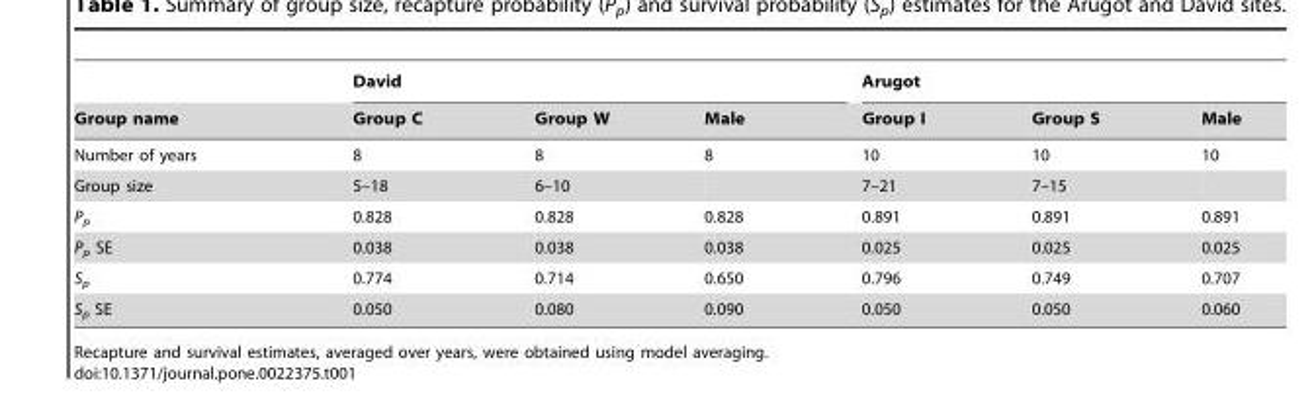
<table><thead><tr><td rowspan="2">Group name</td><td colspan="3">David</td><td colspan="3">Arugot</td></tr><tr><td>Group C</td><td>Group W</td><td>Male</td><td>Group I</td><td>Group S</td><td>Male</td></tr></thead><tbody><tr><td>Number of years</td><td>8</td><td>8</td><td>8</td><td>10</td><td>10</td><td>10</td></tr><tr><td>Group size</td><td>5–18</td><td>6–10</td><td></td><td>7–21</td><td>7–15</td><td></td></tr><tr><td>P<sub>p</sub></td><td>0.828</td><td>0.828</td><td>0.828</td><td>0.891</td><td>0.891</td><td>0.891</td></tr><tr><td>P<sub>p</sub> SE</td><td>0.038</td><td>0.038</td><td>0.038</td><td>0.025</td><td>0.025</td><td>0.025</td></tr><tr><td>S<sub>p</sub></td><td>0.774</td><td>0.714</td><td>0.650</td><td>0.796</td><td>0.749</td><td>0.707</td></tr><tr><td>S<sub>p</sub> SE</td><td>0.050</td><td>0.080</td><td>0.090</td><td>0.050</td><td>0.050</td><td>0.060</td></tr></tbody></table>